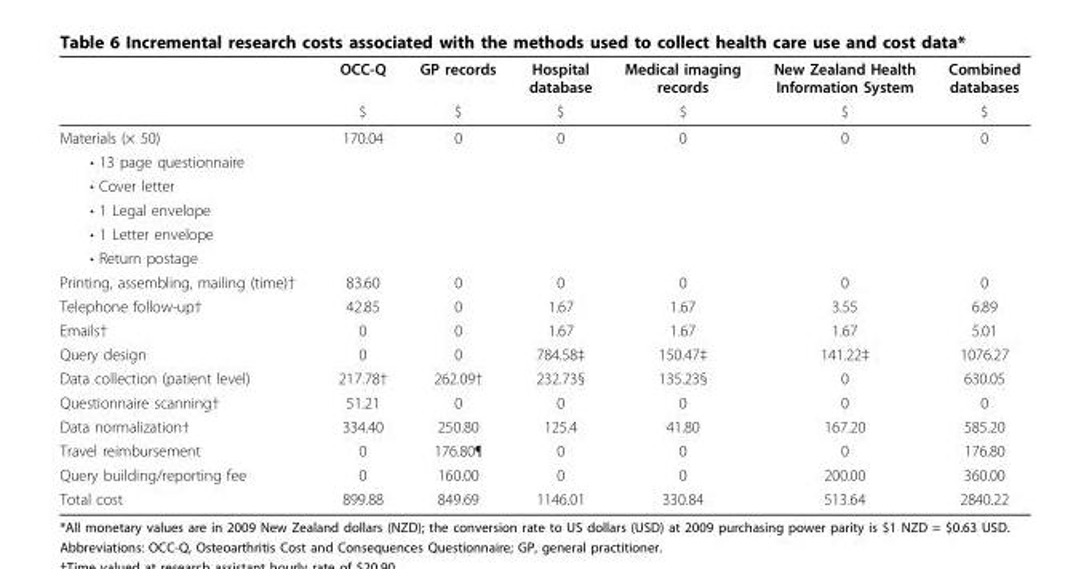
<table><thead><tr><td rowspan="2"></td><td rowspan="2">OCC-Q $</td><td rowspan="2">GP records $</td><td rowspan="2">Hospital database $</td><td rowspan="2">Medical imaging records $</td><td rowspan="2">New Zealand Health Information System $</td><td rowspan="2">Combined databases $</td></tr><tr></tr></thead><tbody><tr><td>Materials (× 50)</td><td>170.04</td><td>0</td><td>0</td><td>0</td><td>0</td><td>0</td></tr><tr><td colspan="7">• 13 page questionnaire</td></tr><tr><td colspan="7">• Cover letter</td></tr><tr><td colspan="7">• 1 Legal envelope</td></tr><tr><td colspan="7">• 1 Letter envelope</td></tr><tr><td colspan="7">• Return postage</td></tr><tr><td>Printing, assembling, mailing (time)†</td><td>83.60</td><td>0</td><td>0</td><td>0</td><td>0</td><td>0</td></tr><tr><td>Telephone follow-up†</td><td>42.85</td><td>0</td><td>1.67</td><td>1.67</td><td>3.55</td><td>6.89</td></tr><tr><td>Emails†</td><td>0</td><td>0</td><td>1.67</td><td>1.67</td><td>1.67</td><td>5.01</td></tr><tr><td>Query design</td><td>0</td><td>0</td><td>784.58‡</td><td>150.47‡</td><td>141.22‡</td><td>1076.27</td></tr><tr><td>Data collection (patient level)</td><td>217.78†</td><td>262.09†</td><td>232.73§</td><td>135.23§</td><td>0</td><td>630.05</td></tr><tr><td>Questionnaire scanning†</td><td>51.21</td><td>0</td><td>0</td><td>0</td><td>0</td><td>0</td></tr><tr><td>Data normalization†</td><td>334.40</td><td>250.80</td><td>125.4</td><td>41.80</td><td>167.20</td><td>585.20</td></tr><tr><td>Travel reimbursement</td><td>0</td><td>176.80¶</td><td>0</td><td>0</td><td>0</td><td>176.80</td></tr><tr><td>Query building/reporting fee</td><td>0</td><td>160.00</td><td>0</td><td>0</td><td>200.00</td><td>360.00</td></tr><tr><td>Total cost</td><td>899.88</td><td>849.69</td><td>1146.01</td><td>330.84</td><td>513.64</td><td>2840.22</td></tr></tbody></table>